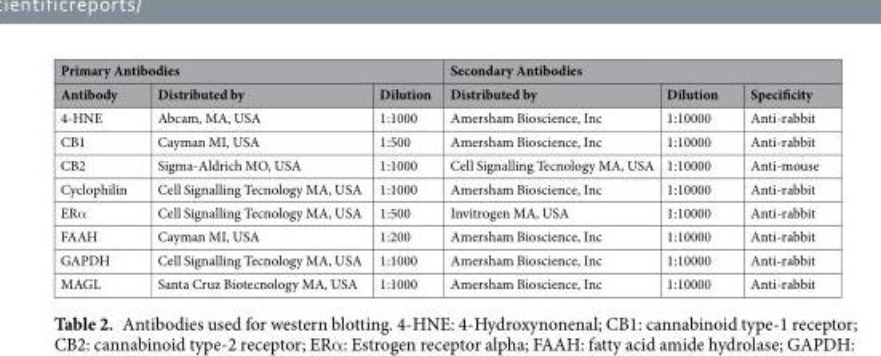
<table><thead><tr><td colspan="3">Primary Antibodies</td><td colspan="3">Secondary Antibodies</td></tr><tr><td>Antibody</td><td>Distributed by</td><td>Dilution</td><td>Distributed by</td><td>Dilution</td><td>Specificity</td></tr></thead><tbody><tr><td>4-HNE</td><td>Abcam, MA, USA</td><td>1:1000</td><td>Amersham Bioscience, Inc</td><td>1:10000</td><td>Anti-rabbit</td></tr><tr><td>CB1</td><td>Cayman MI, USA</td><td>1:500</td><td>Amersham Bioscience, Inc</td><td>1:10000</td><td>Anti-rabbit</td></tr><tr><td>CB2</td><td>Sigma-Aldrich MO, USA</td><td>1:1000</td><td>Cell Signalling Tecnology MA, USA</td><td>1:10000</td><td>Anti-mouse</td></tr><tr><td>Cyclophilin</td><td>Cell Signalling Tecnology MA, USA</td><td>1:1000</td><td>Amersham Bioscience, Inc</td><td>1:10000</td><td>Anti-rabbit</td></tr><tr><td>ERα</td><td>Cell Signalling Tecnology MA, USA</td><td>1:500</td><td>Invitrogen MA, USA</td><td>1:10000</td><td>Anti-rabbit</td></tr><tr><td>FAAH</td><td>Cayman MI, USA</td><td>1:200</td><td>Amersham Bioscience, Inc</td><td>1:10000</td><td>Anti-rabbit</td></tr><tr><td>GAPDH</td><td>Cell Signalling Tecnology MA, USA</td><td>1:1000</td><td>Amersham Bioscience, Inc</td><td>1:10000</td><td>Anti-rabbit</td></tr><tr><td>MAGL</td><td>Santa Cruz Biotecnology MA, USA</td><td>1:1000</td><td>Amersham Bioscience, Inc</td><td>1:10000</td><td>Anti-rabbit</td></tr></tbody></table>